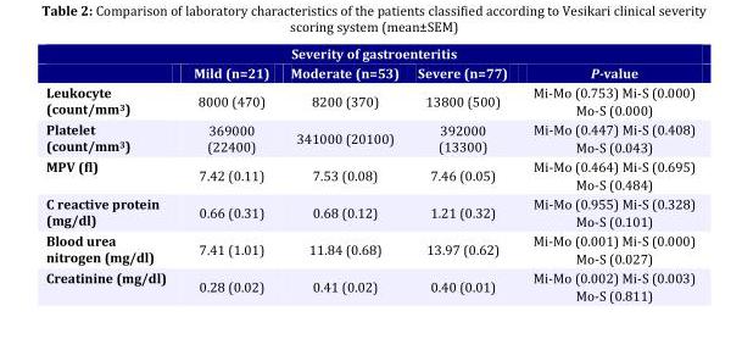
<table><thead><tr><td colspan="5">Severity of gastroenteritis</td></tr><tr><td></td><td>Mild (n=21)</td><td>Moderate (n=53)</td><td>Severe (n=77)</td><td>P-value</td></tr></thead><tbody><tr><td>Leukocyte (count/mm<sup>3</sup>)</td><td>8000 (470)</td><td>8200 (370)</td><td>13800 (500)</td><td>Mi-Mo (0.753) Mi-S (0.000) Mo-S (0.000)</td></tr><tr><td>Platelet (count/mm<sup>3</sup>)</td><td>369000 (22400)</td><td>341000 (20100)</td><td>392000 (13300)</td><td>Mi-Mo (0.447) Mi-S (0.408) Mo-S (0.043)</td></tr><tr><td>MPV (fl)</td><td>7.42 (0.11)</td><td>7.53 (0.08)</td><td>7.46 (0.05)</td><td>Mi-Mo (0.464) Mi-S (0.695) Mo-S (0.484)</td></tr><tr><td>C reactive protein (mg/dl)</td><td>0.66 (0.31)</td><td>0.68 (0.12)</td><td>1.21 (0.32)</td><td>Mi-Mo (0.955) Mi-S (0.328) Mo-S (0.101)</td></tr><tr><td>Blood urea nitrogen (mg/dl)</td><td>7.41 (1.01)</td><td>11.84 (0.68)</td><td>13.97 (0.62)</td><td>Mi-Mo (0.001) Mi-S (0.000) Mo-S (0.027)</td></tr><tr><td>Creatinine (mg/dl)</td><td>0.28 (0.02)</td><td>0.41 (0.02)</td><td>0.40 (0.01)</td><td>Mi-Mo (0.002) Mi-S (0.003) Mo-S (0.811)</td></tr></tbody></table>